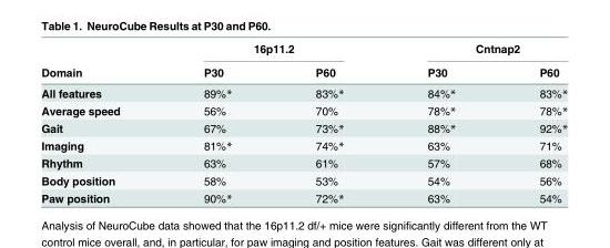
<table><thead><tr><td rowspan="2">Domain</td><td colspan="2">16p11.2</td><td colspan="2">Cntnap2</td></tr><tr><td>P30</td><td>P60</td><td>P30</td><td>P60</td></tr></thead><tbody><tr><td>All features</td><td>89%*</td><td>83%*</td><td>84%*</td><td>83%*</td></tr><tr><td>Average speed</td><td>56%</td><td>70%</td><td>78%*</td><td>78%*</td></tr><tr><td>Gait</td><td>67%</td><td>73%*</td><td>88%*</td><td>92%*</td></tr><tr><td>Imaging</td><td>81%*</td><td>74%*</td><td>63%</td><td>71%</td></tr><tr><td>Rhythm</td><td>63%</td><td>61%</td><td>57%</td><td>68%</td></tr><tr><td>Body position</td><td>58%</td><td>53%</td><td>54%</td><td>56%</td></tr><tr><td>Paw position</td><td>90%*</td><td>72%*</td><td>63%</td><td>54%</td></tr></tbody></table>